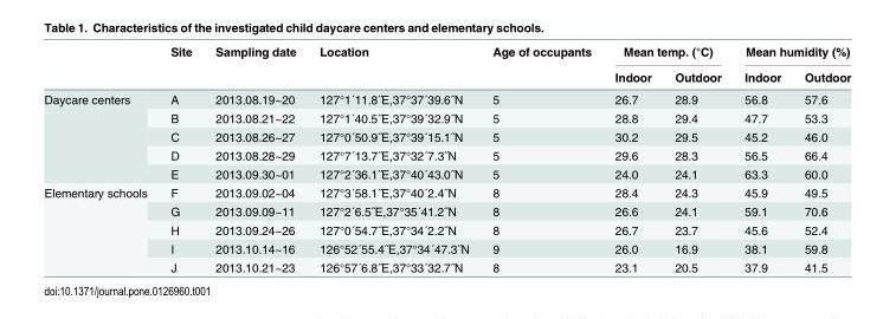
<table><thead><tr><td rowspan="2"></td><td rowspan="2">Site</td><td rowspan="2">Sampling date</td><td rowspan="2">Location</td><td rowspan="2">Age of occupants</td><td colspan="2">Mean temp. (°C)</td><td colspan="2">Mean humidity (%)</td></tr><tr><td>Indoor</td><td>Outdoor</td><td>Indoor</td><td>Outdoor</td></tr></thead><tbody><tr><td rowspan="5">Daycare centers</td><td>A</td><td>2013.08.19~20</td><td>127°1´11.8˝E,37°37´39.6˝N</td><td>5</td><td>26.7</td><td>28.9</td><td>56.8</td><td>57.6</td></tr><tr><td>B</td><td>2013.08.21~22</td><td>127°1´40.5˝E,37°39´32.9˝N</td><td>5</td><td>28.8</td><td>29.4</td><td>47.7</td><td>53.3</td></tr><tr><td>C</td><td>2013.08.26~27</td><td>127°0´50.9˝E,37°39´15.1˝N</td><td>5</td><td>30.2</td><td>29.5</td><td>45.2</td><td>46.0</td></tr><tr><td>D</td><td>2013.08.28~29</td><td>127°7´13.7˝E,37°32´7.3˝N</td><td>5</td><td>29.6</td><td>28.3</td><td>56.5</td><td>66.4</td></tr><tr><td>E</td><td>2013.09.30~01</td><td>127°2´36.1˝E,37°40´43.0˝N</td><td>5</td><td>24.0</td><td>24.1</td><td>63.3</td><td>60.0</td></tr><tr><td rowspan="5">Elementary schools</td><td>F</td><td>2013.09.02~04</td><td>127°3´58.1˝E,37°40´2.4˝N</td><td>8</td><td>28.4</td><td>24.3</td><td>45.9</td><td>49.5</td></tr><tr><td>G</td><td>2013.09.09~11</td><td>127°2´6.5˝E,37°35´41.2˝N</td><td>8</td><td>26.6</td><td>24.1</td><td>59.1</td><td>70.6</td></tr><tr><td>H</td><td>2013.09.24~26</td><td>127°0´54.7˝E,37°34´2.2˝N</td><td>8</td><td>26.7</td><td>23.7</td><td>45.6</td><td>52.4</td></tr><tr><td>I</td><td>2013.10.14~16</td><td>126°52´55.4˝E,37°34´47.3˝N</td><td>9</td><td>26.0</td><td>16.9</td><td>38.1</td><td>59.8</td></tr><tr><td>J</td><td>2013.10.21~23</td><td>126°57´6.8˝E,37°33´32.7˝N</td><td>8</td><td>23.1</td><td>20.5</td><td>37.9</td><td>41.5</td></tr></tbody></table>